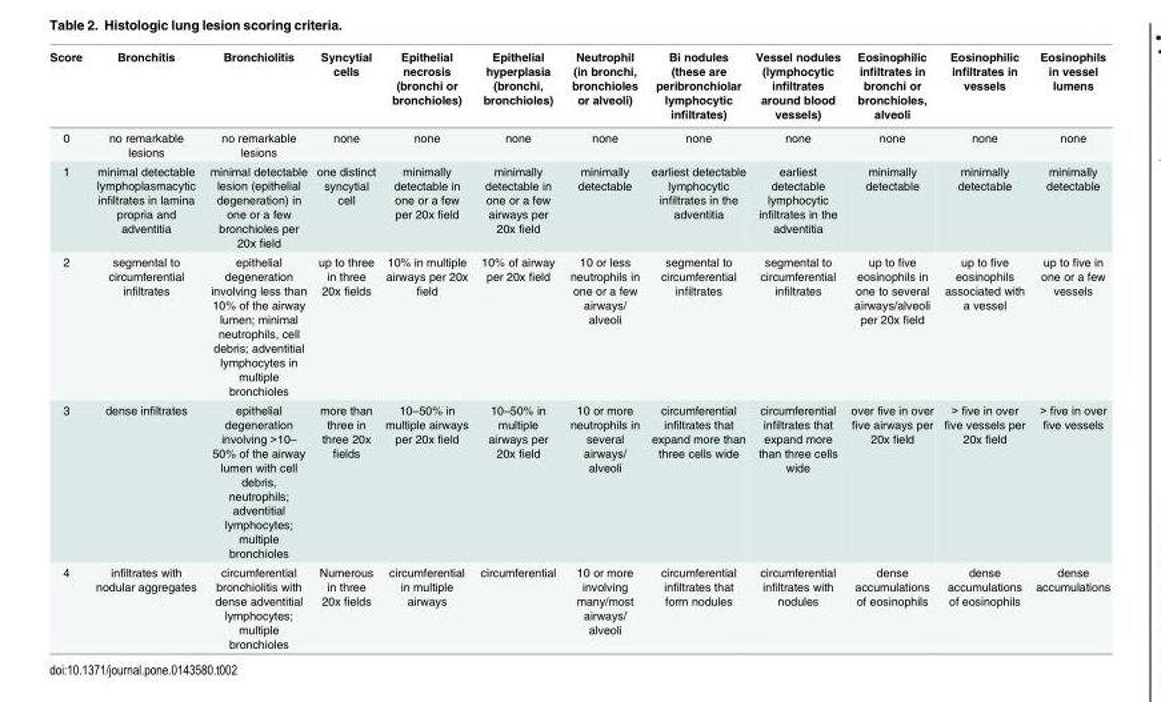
<table><thead><tr><td>Score</td><td>Bronchitis</td><td>Bronchiolitis</td><td>Syncytial cells</td><td>Epithelial necrosis (bronchi or bronchioles)</td><td>Epithelial hyperplasia (bronchi, bronchioles)</td><td>Neutrophil (in bronchi, bronchioles or alveoli)</td><td>Bi nodules (these are peribronchiolar lymphocytic infiltrates)</td><td>Vessel nodules (lymphocytic infiltrates around blood vessels)</td><td>Eosinophilic infiltrates in bronchi or bronchioles, alveoli</td><td>Eosinophilic infiltrates in vessels</td><td>Eosinophils in vessel lumens</td></tr></thead><tbody><tr><td>0</td><td>no remarkable lesions</td><td>no remarkable lesions</td><td>none</td><td>none</td><td>none</td><td>none</td><td>none</td><td>none</td><td>none</td><td>none</td><td>none</td></tr><tr><td>1</td><td>minimal detectable lymphoplasmacytic infiltrates in lamina propria and adventitia</td><td>minimal detectable lesion (epithelial degeneration) in one or a few bronchioles per 20x field</td><td>one distinct syncytial cell</td><td>minimally detectable in one or a few per 20x field</td><td>minimally detectable in one or a few airways per 20x field</td><td>minimally detectable</td><td>earliest detectable lymphocytic infiltrates in the adventitia</td><td>earliest detectable lymphocytic infiltrates in the adventitia</td><td>minimally detectable</td><td>minimally detectable</td><td>minimally detectable</td></tr><tr><td>2</td><td>segmental to circumferential infiltrates</td><td>epithelial degeneration involving less than 10% of the airway lumen; minimal neutrophils, cell debris; adventitial lymphocytes in multiple bronchioles</td><td>up to three in three 20x fields</td><td>10% in multiple airways per 20x field</td><td>10% of airway per 20x field</td><td>10 or less neutrophils in one or a few airways/ alveoli</td><td>segmental to circumferential infiltrates</td><td>segmental to circumferential infiltrates</td><td>up to five eosinophils in one to several airways/alveoli per 20x field</td><td>up to five eosinophils associated with a vessel</td><td>up to five in one or a few vessels</td></tr><tr><td>3</td><td>dense infiltrates</td><td>epithelial degeneration involving &gt;10– 50% of the airway lumen with cell debris, neutrophils; adventitial lymphocytes; multiple bronchioles</td><td>more than three in three 20x fields</td><td>10–50% in multiple airways per 20x field</td><td>10–50% in multiple airways per 20x field</td><td>10 or more neutrophils in several airways/ alveoli</td><td>circumferential infiltrates that expand more than three cells wide</td><td>circumferential infiltrates that expand more than three cells wide</td><td>over five in over five airways per 20x field</td><td>&gt; five in over five vessels per 20x field</td><td>&gt; five in over five vessels</td></tr><tr><td>4</td><td>infiltrates with nodular aggregates</td><td>circumferential bronchiolitis with dense adventitial lymphocytes; multiple bronchioles</td><td>Numerous in three 20x fields</td><td>circumferential in multiple airways</td><td>circumferential</td><td>10 or more involving many/most airways/ alveoli</td><td>circumferential infiltrates that form nodules</td><td>circumferential infiltrates with nodules</td><td>dense accumulations of eosinophils</td><td>dense accumulations of eosinophils</td><td>dense accumulations</td></tr></tbody></table>